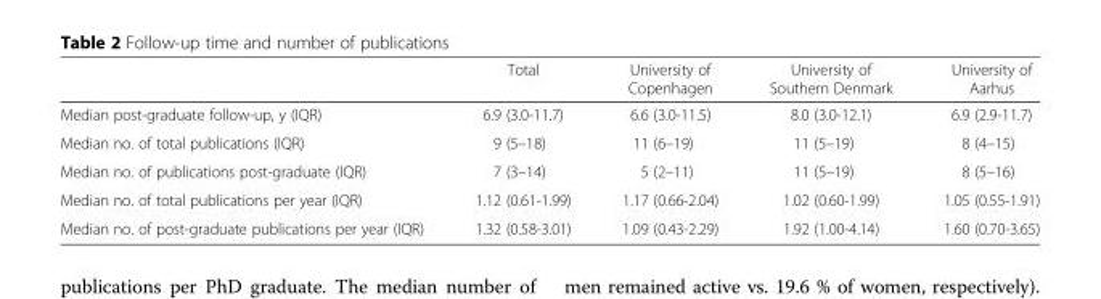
<table><thead><tr><td></td><td>Total</td><td>University of Copenhagen</td><td>University of Southern Denmark</td><td>University of Aarhus</td></tr></thead><tbody><tr><td>Median post-graduate follow-up, y (IQR)</td><td>6.9 (3.0-11.7)</td><td>6.6 (3.0-11.5)</td><td>8.0 (3.0-12.1)</td><td>6.9 (2.9-11.7)</td></tr><tr><td>Median no. of total publications (IQR)</td><td>9 (5–18)</td><td>11 (6–19)</td><td>11 (5–19)</td><td>8 (4–15)</td></tr><tr><td>Median no. of publications post-graduate (IQR)</td><td>7 (3–14)</td><td>5 (2–11)</td><td>11 (5–19)</td><td>8 (5–16)</td></tr><tr><td>Median no. of total publications per year (IQR)</td><td>1.12 (0.61-1.99)</td><td>1.17 (0.66-2.04)</td><td>1.02 (0.60-1.99)</td><td>1.05 (0.55-1.91)</td></tr><tr><td>Median no. of post-graduate publications per year (IQR)</td><td>1.32 (0.58-3.01)</td><td>1.09 (0.43-2.29)</td><td>1.92 (1.00-4.14)</td><td>1.60 (0.70-3.65)</td></tr></tbody></table>